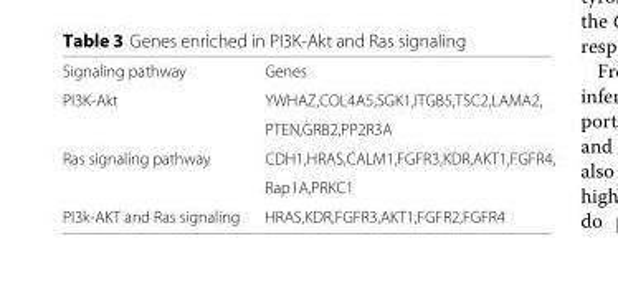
<table><tbody><tr><td>Signaling pathway</td><td>Genes</td></tr><tr><td rowspan="2">PI3K-Akt</td><td>YWHAZ,COL4A5,SGK1,ITGB5,TSC2,LAMA2,</td></tr><tr><td>PTEN,GRB2,PP2R3A</td></tr><tr><td rowspan="2">Ras signaling pathway</td><td>CDH1,HRAS,CALM1,FGFR3,KDR,AKT1,FGFR4,</td></tr><tr><td>Rap1A,PRKC1</td></tr><tr><td>PI3k-AKT and Ras signaling</td><td>HRAS,KDR,FGFR3,AKT1,FGFR2,FGFR4</td></tr></tbody></table>